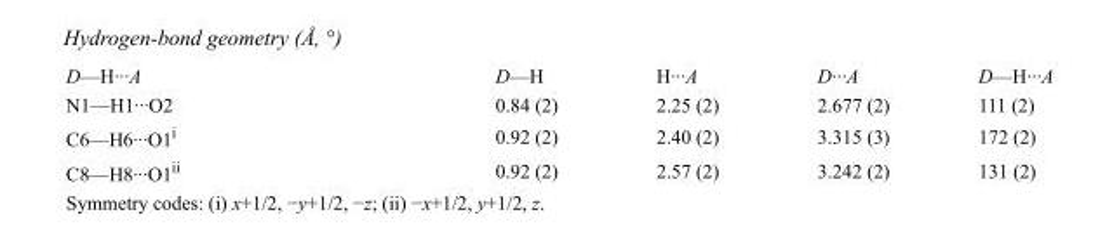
<table><tbody><tr><td>D—H···A</td><td>D—H</td><td>H···A</td><td>D···A</td><td>D—H···A</td></tr><tr><td>N1—H1···O2</td><td>0.84 (2)</td><td>2.25 (2)</td><td>2.677 (2)</td><td>111 (2)</td></tr><tr><td>C6—H6···O1<sup>i</sup></td><td>0.92 (2)</td><td>2.40 (2)</td><td>3.315 (3)</td><td>172 (2)</td></tr><tr><td>C8—H8···O1<sup>ii</sup></td><td>0.92 (2)</td><td>2.57 (2)</td><td>3.242 (2)</td><td>131 (2)</td></tr></tbody></table>